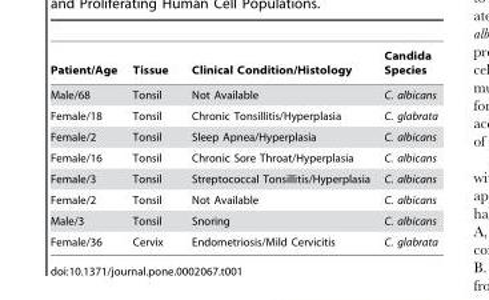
<table><thead><tr><td>Patient/Age</td><td>Tissue</td><td>Clinical Condition/Histology</td><td>Candida Species</td></tr></thead><tbody><tr><td>Male/68</td><td>Tonsil</td><td>Not Available</td><td>C. albicans</td></tr><tr><td>Female/18</td><td>Tonsil</td><td>Chronic Tonsillitis/Hyperplasia</td><td>C. glabrata</td></tr><tr><td>Female/2</td><td>Tonsil</td><td>Sleep Apnea/Hyperplasia</td><td>C. albicans</td></tr><tr><td>Female/16</td><td>Tonsil</td><td>Chronic Sore Throat/Hyperplasia</td><td>C. albicans</td></tr><tr><td>Female/3</td><td>Tonsil</td><td>Streptococcal Tonsillitis/Hyperplasia</td><td>C. albicans</td></tr><tr><td>Female/2</td><td>Tonsil</td><td>Not Available</td><td>C. albicans</td></tr><tr><td>Male/3</td><td>Tonsil</td><td>Snoring</td><td>C. albicans</td></tr><tr><td>Female/36</td><td>Cervix</td><td>Endometriosis/Mild Cervicitis</td><td>C. glabrata</td></tr></tbody></table>